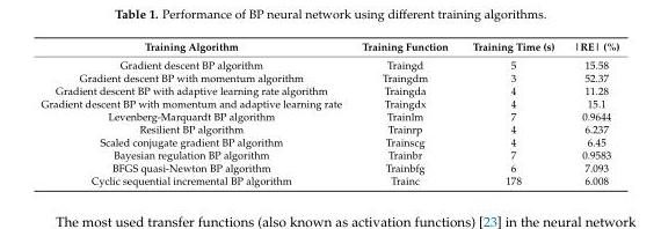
<table><thead><tr><td>Training Algorithm</td><td>Training Function</td><td>Training Time (s)</td><td>|RE| (%)</td></tr></thead><tbody><tr><td>Gradient descent BP algorithm</td><td>Traingd</td><td>5</td><td>15.58</td></tr><tr><td>Gradient descent BP with momentum algorithm</td><td>Traingdm</td><td>3</td><td>52.37</td></tr><tr><td>Gradient descent BP with adaptive learning rate algorithm</td><td>Traingda</td><td>4</td><td>11.28</td></tr><tr><td>Gradient descent BP with momentum and adaptive learning rate</td><td>Traingdx</td><td>4</td><td>15.1</td></tr><tr><td>Levenberg-Marquardt BP algorithm</td><td>Trainlm</td><td>7</td><td>0.9644</td></tr><tr><td>Resilient BP algorithm</td><td>Trainrp</td><td>4</td><td>6.237</td></tr><tr><td>Scaled conjugate gradient BP algorithm</td><td>Trainscg</td><td>4</td><td>6.45</td></tr><tr><td>Bayesian regulation BP algorithm</td><td>Trainbr</td><td>7</td><td>0.9583</td></tr><tr><td>BFGS quasi-Newton BP algorithm</td><td>Trainbfg</td><td>6</td><td>7.093</td></tr><tr><td>Cyclic sequential incremental BP algorithm</td><td>Trainc</td><td>178</td><td>6.008</td></tr></tbody></table>